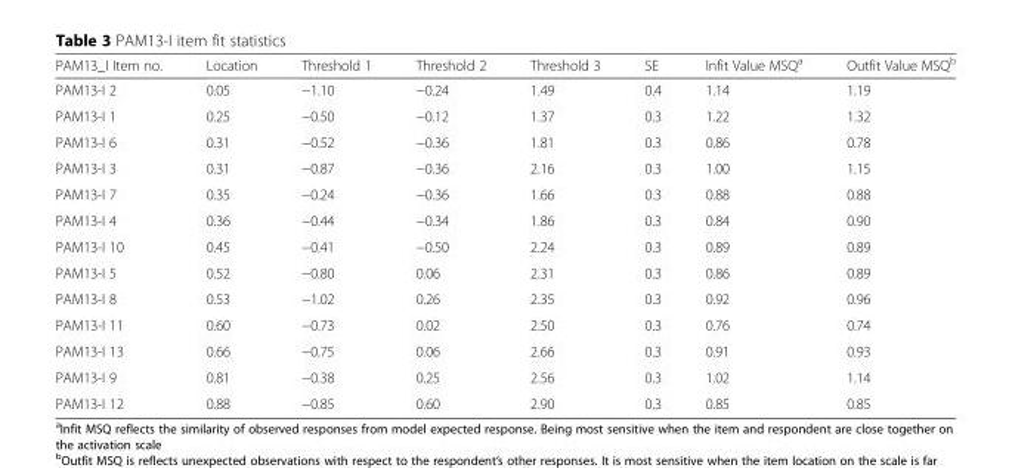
<table><thead><tr><td>PAM13_I Item no.</td><td>Location</td><td>Threshold 1</td><td>Threshold 2</td><td>Threshold 3</td><td>SE</td><td>Infit Value MSQ<sup>a</sup></td><td>Outfit Value MSQ<sup>b</sup></td></tr></thead><tbody><tr><td>PAM13-I 2</td><td>0.05</td><td>−1.10</td><td>−0.24</td><td>1.49</td><td>0.4</td><td>1.14</td><td>1.19</td></tr><tr><td>PAM13-I 1</td><td>0.25</td><td>−0.50</td><td>−0.12</td><td>1.37</td><td>0.3</td><td>1.22</td><td>1.32</td></tr><tr><td>PAM13-I 6</td><td>0.31</td><td>−0.52</td><td>−0.36</td><td>1.81</td><td>0.3</td><td>0.86</td><td>0.78</td></tr><tr><td>PAM13-I 3</td><td>0.31</td><td>−0.87</td><td>−0.36</td><td>2.16</td><td>0.3</td><td>1.00</td><td>1.15</td></tr><tr><td>PAM13-I 7</td><td>0.35</td><td>−0.24</td><td>−0.36</td><td>1.66</td><td>0.3</td><td>0.88</td><td>0.88</td></tr><tr><td>PAM13-I 4</td><td>0.36</td><td>−0.44</td><td>−0.34</td><td>1.86</td><td>0.3</td><td>0.84</td><td>0.90</td></tr><tr><td>PAM13-I 10</td><td>0.45</td><td>−0.41</td><td>−0.50</td><td>2.24</td><td>0.3</td><td>0.89</td><td>0.89</td></tr><tr><td>PAM13-I 5</td><td>0.52</td><td>−0.80</td><td>0.06</td><td>2.31</td><td>0.3</td><td>0.86</td><td>0.89</td></tr><tr><td>PAM13-I 8</td><td>0.53</td><td>−1.02</td><td>0.26</td><td>2.35</td><td>0.3</td><td>0.92</td><td>0.96</td></tr><tr><td>PAM13-I 11</td><td>0.60</td><td>−0.73</td><td>0.02</td><td>2.50</td><td>0.3</td><td>0.76</td><td>0.74</td></tr><tr><td>PAM13-I 13</td><td>0.66</td><td>−0.75</td><td>0.06</td><td>2.66</td><td>0.3</td><td>0.91</td><td>0.93</td></tr><tr><td>PAM13-I 9</td><td>0.81</td><td>−0.38</td><td>0.25</td><td>2.56</td><td>0.3</td><td>1.02</td><td>1.14</td></tr><tr><td>PAM13-I 12</td><td>0.88</td><td>−0.85</td><td>0.60</td><td>2.90</td><td>0.3</td><td>0.85</td><td>0.85</td></tr></tbody></table>